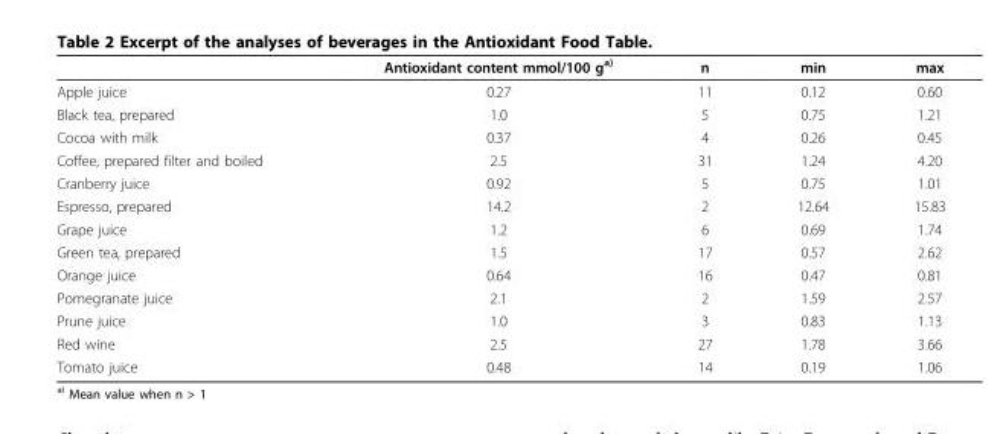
<table><thead><tr><td></td><td>Antioxidant content mmol/100 g<sup>a)</sup></td><td>n</td><td>min</td><td>max</td></tr></thead><tbody><tr><td>Apple juice</td><td>0.27</td><td>11</td><td>0.12</td><td>0.60</td></tr><tr><td>Black tea, prepared</td><td>1.0</td><td>5</td><td>0.75</td><td>1.21</td></tr><tr><td>Cocoa with milk</td><td>0.37</td><td>4</td><td>0.26</td><td>0.45</td></tr><tr><td>Coffee, prepared filter and boiled</td><td>2.5</td><td>31</td><td>1.24</td><td>4.20</td></tr><tr><td>Cranberry juice</td><td>0.92</td><td>5</td><td>0.75</td><td>1.01</td></tr><tr><td>Espresso, prepared</td><td>14.2</td><td>2</td><td>12.64</td><td>15.83</td></tr><tr><td>Grape juice</td><td>1.2</td><td>6</td><td>0.69</td><td>1.74</td></tr><tr><td>Green tea, prepared</td><td>1.5</td><td>17</td><td>0.57</td><td>2.62</td></tr><tr><td>Orange juice</td><td>0.64</td><td>16</td><td>0.47</td><td>0.81</td></tr><tr><td>Pomegranate juice</td><td>2.1</td><td>2</td><td>1.59</td><td>2.57</td></tr><tr><td>Prune juice</td><td>1.0</td><td>3</td><td>0.83</td><td>1.13</td></tr><tr><td>Red wine</td><td>2.5</td><td>27</td><td>1.78</td><td>3.66</td></tr><tr><td>Tomato juice</td><td>0.48</td><td>14</td><td>0.19</td><td>1.06</td></tr></tbody></table>